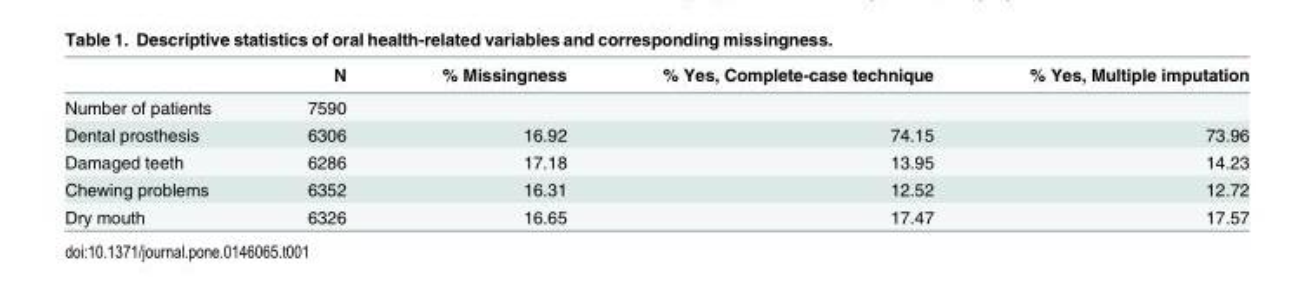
<table><thead><tr><td></td><td>N</td><td>% Missingness</td><td>% Yes, Complete-case technique</td><td>% Yes, Multiple imputation</td></tr></thead><tbody><tr><td>Number of patients</td><td>7590</td><td></td><td></td><td></td></tr><tr><td>Dental prosthesis</td><td>6306</td><td>16.92</td><td>74.15</td><td>73.96</td></tr><tr><td>Damaged teeth</td><td>6286</td><td>17.18</td><td>13.95</td><td>14.23</td></tr><tr><td>Chewing problems</td><td>6352</td><td>16.31</td><td>12.52</td><td>12.72</td></tr><tr><td>Dry mouth</td><td>6326</td><td>16.65</td><td>17.47</td><td>17.57</td></tr></tbody></table>